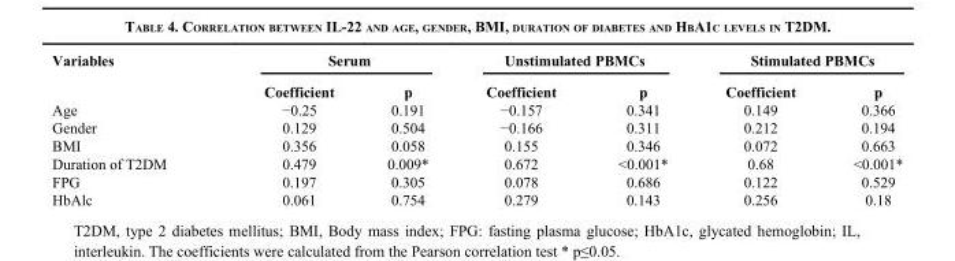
<table><thead><tr><td rowspan="2">Variables</td><td colspan="2">Serum</td><td colspan="2">Unstimulated PBMCs</td><td colspan="2">Stimulated PBMCs</td></tr><tr><td>Coefficient</td><td>p</td><td>Coefficient</td><td>p</td><td>Coefficient</td><td>p</td></tr></thead><tbody><tr><td>Age</td><td>−0.25</td><td>0.191</td><td>−0.157</td><td>0.341</td><td>0.149</td><td>0.366</td></tr><tr><td>Gender</td><td>0.129</td><td>0.504</td><td>−0.166</td><td>0.311</td><td>0.212</td><td>0.194</td></tr><tr><td>BMI</td><td>0.356</td><td>0.058</td><td>0.155</td><td>0.346</td><td>0.072</td><td>0.663</td></tr><tr><td>Duration of T2DM</td><td>0.479</td><td>0.009*</td><td>0.672</td><td>&lt;0.001*</td><td>0.68</td><td>&lt;0.001*</td></tr><tr><td>FPG</td><td>0.197</td><td>0.305</td><td>0.078</td><td>0.686</td><td>0.122</td><td>0.529</td></tr><tr><td>HbAlc</td><td>0.061</td><td>0.754</td><td>0.279</td><td>0.143</td><td>0.256</td><td>0.18</td></tr></tbody></table>